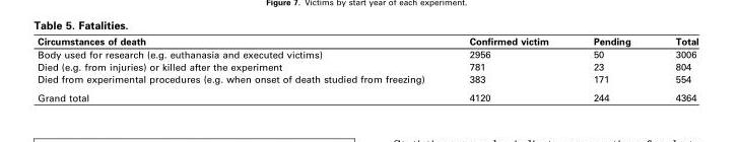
<table><thead><tr><td>Circumstances of death</td><td>Confirmed victim</td><td>Pending</td><td>Total</td></tr></thead><tbody><tr><td>Body used for research (e.g. euthanasia and executed victims)</td><td>2956</td><td>50</td><td>3006</td></tr><tr><td>Died (e.g. from injuries) or killed after the experiment</td><td>781</td><td>23</td><td>804</td></tr><tr><td>Died from experimental procedures (e.g. when onset of death studied from freezing)</td><td>383</td><td>171</td><td>554</td></tr><tr><td>Grand total</td><td>4120</td><td>244</td><td>4364</td></tr></tbody></table>